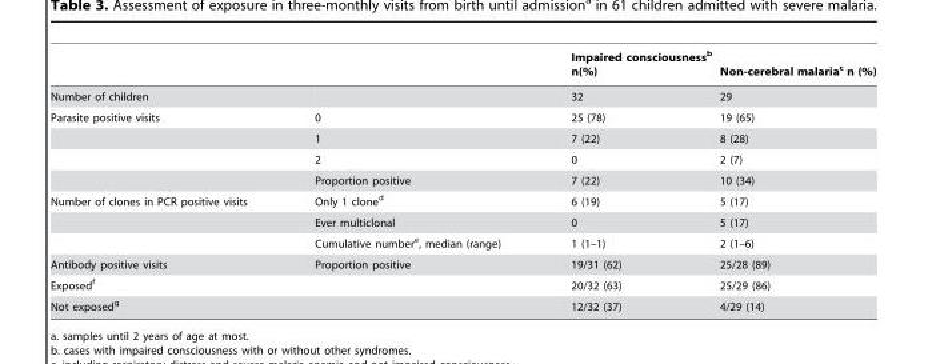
<table><thead><tr><td></td><td></td><td>Impaired consciousness<sup>b</sup> n(%)</td><td>Non-cerebral malaria<sup>c</sup> n (%)</td></tr></thead><tbody><tr><td>Number of children</td><td></td><td>32</td><td>29</td></tr><tr><td rowspan="4">Parasite positive visits</td><td>0</td><td>25 (78)</td><td>19 (65)</td></tr><tr><td>1</td><td>7 (22)</td><td>8 (28)</td></tr><tr><td>2</td><td>0</td><td>2 (7)</td></tr><tr><td>Proportion positive</td><td>7 (22)</td><td>10 (34)</td></tr><tr><td rowspan="3">Number of clones in PCR positive visits</td><td>Only 1 clone<sup>d</sup></td><td>6 (19)</td><td>5 (17)</td></tr><tr><td>Ever multiclonal</td><td>0</td><td>5 (17)</td></tr><tr><td>Cumulative number<sup>e</sup>, median (range)</td><td>1 (1–1)</td><td>2 (1–6)</td></tr><tr><td>Antibody positive visits</td><td>Proportion positive</td><td>19/31 (62)</td><td>25/28 (89)</td></tr><tr><td colspan="2">Exposed<sup>f</sup></td><td>20/32 (63)</td><td>25/29 (86)</td></tr><tr><td colspan="2">Not exposed<sup>g</sup></td><td>12/32 (37)</td><td>4/29 (14)</td></tr></tbody></table>